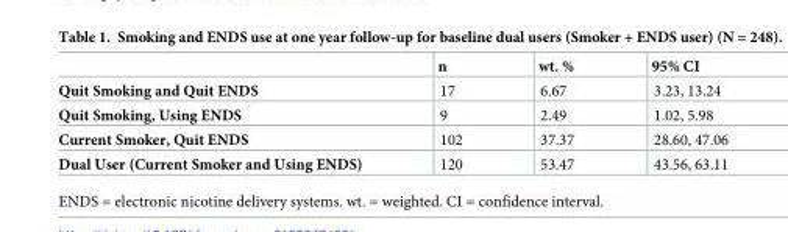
<table><thead><tr><td></td><td>n</td><td>wt. %</td><td>95% CI</td></tr></thead><tbody><tr><td>Quit Smoking and Quit ENDS</td><td>17</td><td>6.67</td><td>3.23, 13.24</td></tr><tr><td>Quit Smoking, Using ENDS</td><td>9</td><td>2.49</td><td>1.02, 5.98</td></tr><tr><td>Current Smoker, Quit ENDS</td><td>102</td><td>37.37</td><td>28.60, 47.06</td></tr><tr><td>Dual User (Current Smoker and Using ENDS)</td><td>120</td><td>53.47</td><td>43.56, 63.11</td></tr></tbody></table>